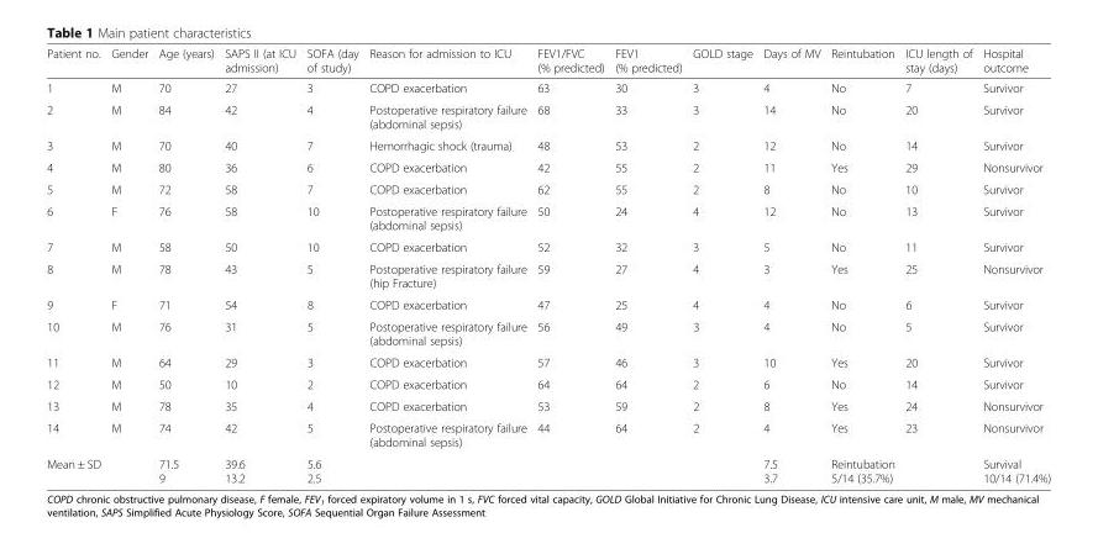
<table><thead><tr><td>Patient no.</td><td>Gender</td><td>Age (years)</td><td>SAPS II (at ICU admission)</td><td>SOFA (day of study)</td><td>Reason for admission to ICU</td><td>FEV1/FVC (% predicted)</td><td>FEV1 (% predicted)</td><td>GOLD stage</td><td>Days of MV</td><td>Reintubation</td><td>ICU length of stay (days)</td><td>Hospital outcome</td></tr></thead><tbody><tr><td>1</td><td>M</td><td>70</td><td>27</td><td>3</td><td>COPD exacerbation</td><td>63</td><td>30</td><td>3</td><td>4</td><td>No</td><td>7</td><td>Survivor</td></tr><tr><td>2</td><td>M</td><td>84</td><td>42</td><td>4</td><td>Postoperative respiratory failure (abdominal sepsis)</td><td>68</td><td>33</td><td>3</td><td>14</td><td>No</td><td>20</td><td>Survivor</td></tr><tr><td>3</td><td>M</td><td>70</td><td>40</td><td>7</td><td>Hemorrhagic shock (trauma)</td><td>48</td><td>53</td><td>2</td><td>12</td><td>No</td><td>14</td><td>Survivor</td></tr><tr><td>4</td><td>M</td><td>80</td><td>36</td><td>6</td><td>COPD exacerbation</td><td>42</td><td>55</td><td>2</td><td>11</td><td>Yes</td><td>29</td><td>Nonsurvivor</td></tr><tr><td>5</td><td>M</td><td>72</td><td>58</td><td>7</td><td>COPD exacerbation</td><td>62</td><td>55</td><td>2</td><td>8</td><td>No</td><td>10</td><td>Survivor</td></tr><tr><td>6</td><td>F</td><td>76</td><td>58</td><td>10</td><td>Postoperative respiratory failure (abdominal sepsis)</td><td>50</td><td>24</td><td>4</td><td>12</td><td>No</td><td>13</td><td>Survivor</td></tr><tr><td>7</td><td>M</td><td>58</td><td>50</td><td>10</td><td>COPD exacerbation</td><td>52</td><td>32</td><td>3</td><td>5</td><td>No</td><td>11</td><td>Survivor</td></tr><tr><td>8</td><td>M</td><td>78</td><td>43</td><td>5</td><td>Postoperative respiratory failure (hip Fracture)</td><td>59</td><td>27</td><td>4</td><td>3</td><td>Yes</td><td>25</td><td>Nonsurvivor</td></tr><tr><td>9</td><td>F</td><td>71</td><td>54</td><td>8</td><td>COPD exacerbation</td><td>47</td><td>25</td><td>4</td><td>4</td><td>No</td><td>6</td><td>Survivor</td></tr><tr><td>10</td><td>M</td><td>76</td><td>31</td><td>5</td><td>Postoperative respiratory failure (abdominal sepsis)</td><td>56</td><td>49</td><td>3</td><td>4</td><td>No</td><td>5</td><td>Survivor</td></tr><tr><td>11</td><td>M</td><td>64</td><td>29</td><td>3</td><td>COPD exacerbation</td><td>57</td><td>46</td><td>3</td><td>10</td><td>Yes</td><td>20</td><td>Survivor</td></tr><tr><td>12</td><td>M</td><td>50</td><td>10</td><td>2</td><td>COPD exacerbation</td><td>64</td><td>64</td><td>2</td><td>6</td><td>No</td><td>14</td><td>Survivor</td></tr><tr><td>13</td><td>M</td><td>78</td><td>35</td><td>4</td><td>COPD exacerbation</td><td>53</td><td>59</td><td>2</td><td>8</td><td>Yes</td><td>24</td><td>Nonsurvivor</td></tr><tr><td>14</td><td>M</td><td>74</td><td>42</td><td>5</td><td>Postoperative respiratory failure (abdominal sepsis)</td><td>44</td><td>64</td><td>2</td><td>4</td><td>Yes</td><td>23</td><td>Nonsurvivor</td></tr><tr><td>Mean ± SD</td><td></td><td>71.5 9</td><td>39.6 13.2</td><td>5.6 2.5</td><td></td><td></td><td></td><td></td><td>7.5 3.7</td><td>Reintubation 5/14 (35.7%)</td><td></td><td>Survival 10/14 (71.4%)</td></tr></tbody></table>